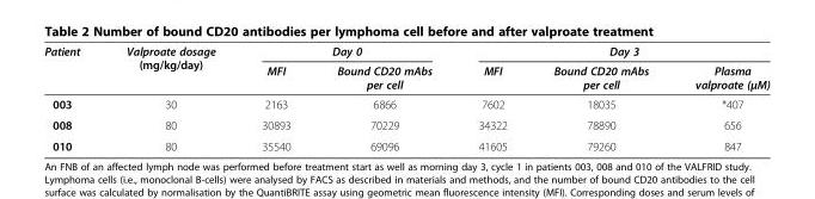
<table><thead><tr><td rowspan="2">Patient</td><td rowspan="2">Valproate dosage (mg/kg/day)</td><td colspan="2">Day 0</td><td colspan="3">Day 3</td></tr><tr><td>MFI</td><td>Bound CD20 mAbs per cell</td><td>MFI</td><td>Bound CD20 mAbs per cell</td><td>Plasma valproate (μM)</td></tr></thead><tbody><tr><td>003</td><td>30</td><td>2163</td><td>6866</td><td>7602</td><td>18035</td><td>*407</td></tr><tr><td>008</td><td>80</td><td>30893</td><td>70229</td><td>34322</td><td>78890</td><td>656</td></tr><tr><td>010</td><td>80</td><td>35540</td><td>69096</td><td>41605</td><td>79260</td><td>847</td></tr></tbody></table>